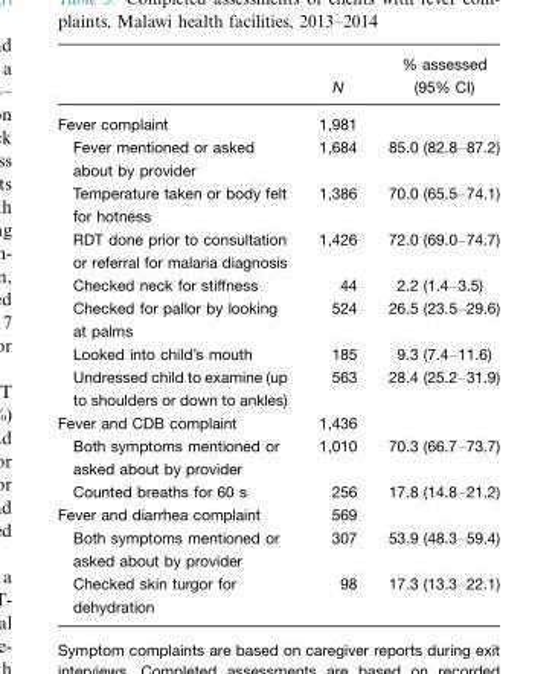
<table><thead><tr><td></td><td>N</td><td>% assessed (95% CI)</td></tr></thead><tbody><tr><td>Fever complaint</td><td>1,981</td><td></td></tr><tr><td>Fever mentioned or asked about by provider</td><td>1,684</td><td>85.0 (82.8–87.2)</td></tr><tr><td>Temperature taken or body felt for hotness</td><td>1,386</td><td>70.0 (65.5–74.1)</td></tr><tr><td>RDT done prior to consultation or referral for malaria diagnosis</td><td>1,426</td><td>72.0 (69.0–74.7)</td></tr><tr><td>Checked neck for stiffness</td><td>44</td><td>2.2 (1.4–3.5)</td></tr><tr><td>Checked for pallor by looking at palms</td><td>524</td><td>26.5 (23.5–29.6)</td></tr><tr><td>Looked into child’s mouth</td><td>185</td><td>9.3 (7.4–11.6)</td></tr><tr><td>Undressed child to examine (up to shoulders or down to ankles)</td><td>563</td><td>28.4 (25.2–31.9)</td></tr><tr><td>Fever and CDB complaint</td><td>1,436</td><td></td></tr><tr><td>Both symptoms mentioned or asked about by provider</td><td>1,010</td><td>70.3 (66.7–73.7)</td></tr><tr><td>Counted breaths for 60 s</td><td>256</td><td>17.8 (14.8–21.2)</td></tr><tr><td>Fever and diarrhea complaint</td><td>569</td><td></td></tr><tr><td>Both symptoms mentioned or asked about by provider</td><td>307</td><td>53.9 (48.3–59.4)</td></tr><tr><td>Checked skin turgor for dehydration</td><td>98</td><td>17.3 (13.3–22.1)</td></tr></tbody></table>